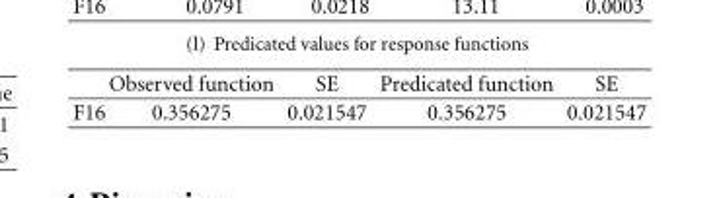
<table><thead><tr><td></td><td>Observed function</td><td>SE</td><td>Predicated function</td><td>SE</td></tr></thead><tbody><tr><td>F16</td><td>0.356275</td><td>0.021547</td><td>0.356275</td><td>0.021547</td></tr></tbody></table>